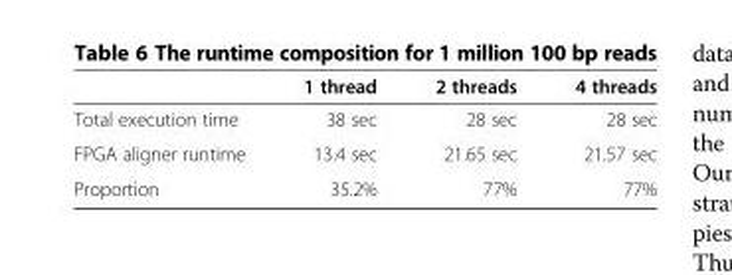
<table><thead><tr><td></td><td>1 thread</td><td>2 threads</td><td>4 threads</td></tr></thead><tbody><tr><td>Total execution time</td><td>38 sec</td><td>28 sec</td><td>28 sec</td></tr><tr><td>FPGA aligner runtime</td><td>13.4 sec</td><td>21.65 sec</td><td>21.57 sec</td></tr><tr><td>Proportion</td><td>35.2%</td><td>77%</td><td>77%</td></tr></tbody></table>